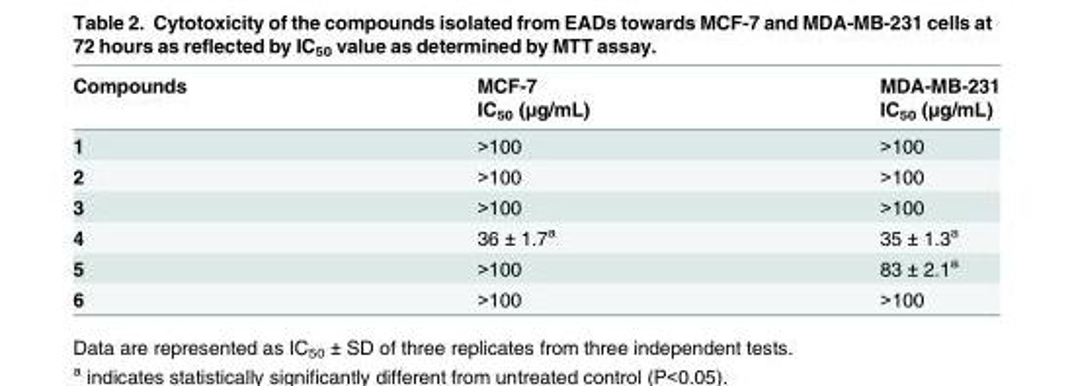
<table><thead><tr><td rowspan="2">Compounds</td><td rowspan="2">MCF-7 IC<sub>50</sub> (μg/mL)</td><td rowspan="2">MDA-MB-231 IC<sub>50</sub> (μg/mL)</td></tr><tr></tr></thead><tbody><tr><td>1</td><td>&gt;100</td><td>&gt;100</td></tr><tr><td>2</td><td>&gt;100</td><td>&gt;100</td></tr><tr><td>3</td><td>&gt;100</td><td>&gt;100</td></tr><tr><td>4</td><td>36 ± 1.7<sup>a</sup></td><td>35 ± 1.3<sup>a</sup></td></tr><tr><td>5</td><td>&gt;100</td><td>83 ± 2.1<sup>a</sup></td></tr><tr><td>6</td><td>&gt;100</td><td>&gt;100</td></tr></tbody></table>